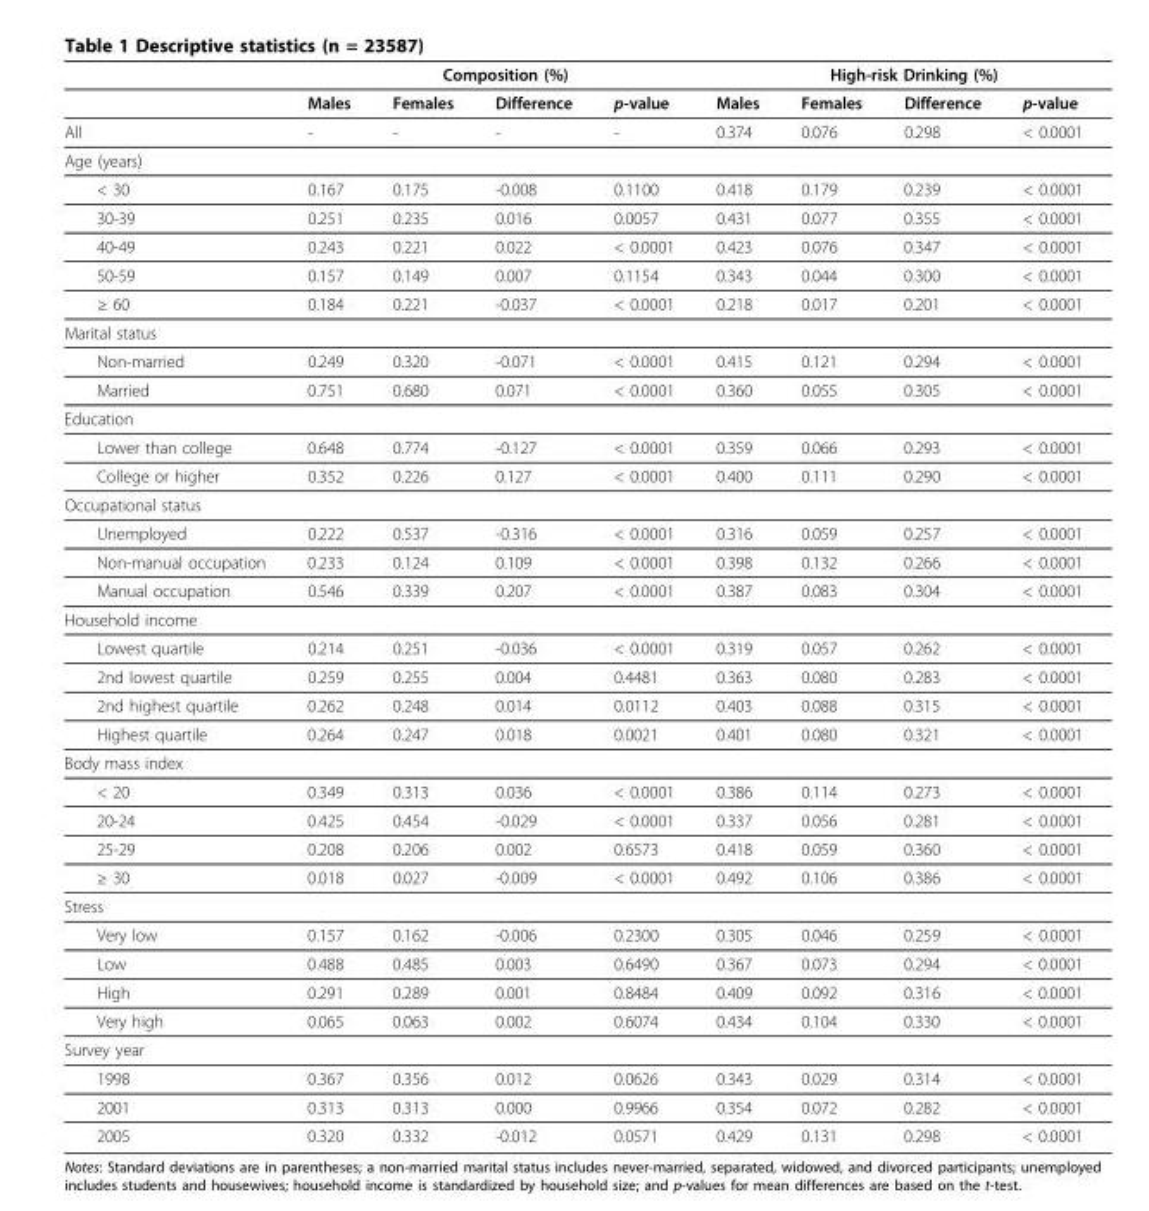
<table><thead><tr><td rowspan="2"></td><td colspan="4">Composition (%)</td><td colspan="4">High-risk Drinking (%)</td></tr><tr><td>Males</td><td>Females</td><td>Difference</td><td>p-value</td><td>Males</td><td>Females</td><td>Difference</td><td>p-value</td></tr></thead><tbody><tr><td>All</td><td>-</td><td>-</td><td>-</td><td>-</td><td>0.374</td><td>0.076</td><td>0.298</td><td>&lt; 0.0001</td></tr><tr><td colspan="9">Age (years)</td></tr><tr><td>&lt; 30</td><td>0.167</td><td>0.175</td><td>-0.008</td><td>0.1100</td><td>0.418</td><td>0.179</td><td>0.239</td><td>&lt; 0.0001</td></tr><tr><td>30-39</td><td>0.251</td><td>0.235</td><td>0.016</td><td>0.0057</td><td>0.431</td><td>0.077</td><td>0.355</td><td>&lt; 0.0001</td></tr><tr><td>40-49</td><td>0.243</td><td>0.221</td><td>0.022</td><td>&lt; 0.0001</td><td>0.423</td><td>0.076</td><td>0.347</td><td>&lt; 0.0001</td></tr><tr><td>50-59</td><td>0.157</td><td>0.149</td><td>0.007</td><td>0.1154</td><td>0.343</td><td>0.044</td><td>0.300</td><td>&lt; 0.0001</td></tr><tr><td>≥ 60</td><td>0.184</td><td>0.221</td><td>-0.037</td><td>&lt; 0.0001</td><td>0.218</td><td>0.017</td><td>0.201</td><td>&lt; 0.0001</td></tr><tr><td colspan="9">Marital status</td></tr><tr><td>Non-married</td><td>0.249</td><td>0.320</td><td>-0.071</td><td>&lt; 0.0001</td><td>0.415</td><td>0.121</td><td>0.294</td><td>&lt; 0.0001</td></tr><tr><td>Married</td><td>0.751</td><td>0.680</td><td>0.071</td><td>&lt; 0.0001</td><td>0.360</td><td>0.055</td><td>0.305</td><td>&lt; 0.0001</td></tr><tr><td colspan="9">Education</td></tr><tr><td>Lower than college</td><td>0.648</td><td>0.774</td><td>-0.127</td><td>&lt; 0.0001</td><td>0.359</td><td>0.066</td><td>0.293</td><td>&lt; 0.0001</td></tr><tr><td>College or higher</td><td>0.352</td><td>0.226</td><td>0.127</td><td>&lt; 0.0001</td><td>0.400</td><td>0.111</td><td>0.290</td><td>&lt; 0.0001</td></tr><tr><td colspan="9">Occupational status</td></tr><tr><td>Unemployed</td><td>0.222</td><td>0.537</td><td>-0.316</td><td>&lt; 0.0001</td><td>0.316</td><td>0.059</td><td>0.257</td><td>&lt; 0.0001</td></tr><tr><td>Non-manual occupation</td><td>0.233</td><td>0.124</td><td>0.109</td><td>&lt; 0.0001</td><td>0.398</td><td>0.132</td><td>0.266</td><td>&lt; 0.0001</td></tr><tr><td>Manual occupation</td><td>0.546</td><td>0.339</td><td>0.207</td><td>&lt; 0.0001</td><td>0.387</td><td>0.083</td><td>0.304</td><td>&lt; 0.0001</td></tr><tr><td colspan="9">Household income</td></tr><tr><td>Lowest quartile</td><td>0.214</td><td>0.251</td><td>-0.036</td><td>&lt; 0.0001</td><td>0.319</td><td>0.057</td><td>0.262</td><td>&lt; 0.0001</td></tr><tr><td>2nd lowest quartile</td><td>0.259</td><td>0.255</td><td>0.004</td><td>0.4481</td><td>0.363</td><td>0.080</td><td>0.283</td><td>&lt; 0.0001</td></tr><tr><td>2nd highest quartile</td><td>0.262</td><td>0.248</td><td>0.014</td><td>0.0112</td><td>0.403</td><td>0.088</td><td>0.315</td><td>&lt; 0.0001</td></tr><tr><td>Highest quartile</td><td>0.264</td><td>0.247</td><td>0.018</td><td>0.0021</td><td>0.401</td><td>0.080</td><td>0.321</td><td>&lt; 0.0001</td></tr><tr><td colspan="9">Body mass index</td></tr><tr><td>&lt; 20</td><td>0.349</td><td>0.313</td><td>0.036</td><td>&lt; 0.0001</td><td>0.386</td><td>0.114</td><td>0.273</td><td>&lt; 0.0001</td></tr><tr><td>20-24</td><td>0.425</td><td>0.454</td><td>-0.029</td><td>&lt; 0.0001</td><td>0.337</td><td>0.056</td><td>0.281</td><td>&lt; 0.0001</td></tr><tr><td>25-29</td><td>0.208</td><td>0.206</td><td>0.002</td><td>0.6573</td><td>0.418</td><td>0.059</td><td>0.360</td><td>&lt; 0.0001</td></tr><tr><td>≥ 30</td><td>0.018</td><td>0.027</td><td>-0.009</td><td>&lt; 0.0001</td><td>0.492</td><td>0.106</td><td>0.386</td><td>&lt; 0.0001</td></tr><tr><td colspan="9">Stress</td></tr><tr><td>Very low</td><td>0.157</td><td>0.162</td><td>-0.006</td><td>0.2300</td><td>0.305</td><td>0.046</td><td>0.259</td><td>&lt; 0.0001</td></tr><tr><td>Low</td><td>0.488</td><td>0.485</td><td>0.003</td><td>0.6490</td><td>0.367</td><td>0.073</td><td>0.294</td><td>&lt; 0.0001</td></tr><tr><td>High</td><td>0.291</td><td>0.289</td><td>0.001</td><td>0.8484</td><td>0.409</td><td>0.092</td><td>0.316</td><td>&lt; 0.0001</td></tr><tr><td>Very high</td><td>0.065</td><td>0.063</td><td>0.002</td><td>0.6074</td><td>0.434</td><td>0.104</td><td>0.330</td><td>&lt; 0.0001</td></tr><tr><td colspan="9">Survey year</td></tr><tr><td>1998</td><td>0.367</td><td>0.356</td><td>0.012</td><td>0.0626</td><td>0.343</td><td>0.029</td><td>0.314</td><td>&lt; 0.0001</td></tr><tr><td>2001</td><td>0.313</td><td>0.313</td><td>0.000</td><td>0.9966</td><td>0.354</td><td>0.072</td><td>0.282</td><td>&lt; 0.0001</td></tr><tr><td>2005</td><td>0.320</td><td>0.332</td><td>-0.012</td><td>0.0571</td><td>0.429</td><td>0.131</td><td>0.298</td><td>&lt; 0.0001</td></tr></tbody></table>